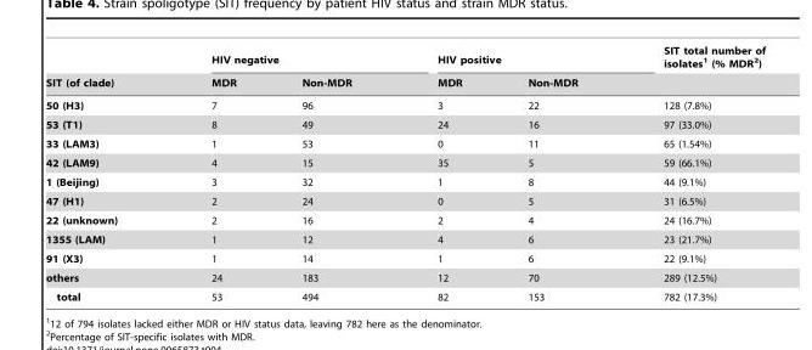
<table><thead><tr><td rowspan="2">SIT (of clade)</td><td colspan="2">HIV negative</td><td colspan="2">HIV positive</td><td rowspan="2">SIT total number of isolates<sup>1</sup> (% MDR<sup>2</sup>)</td></tr><tr><td>MDR</td><td>Non-MDR</td><td>MDR</td><td>Non-MDR</td></tr></thead><tbody><tr><td>50 (H3)</td><td>7</td><td>96</td><td>3</td><td>22</td><td>128 (7.8%)</td></tr><tr><td>53 (T1)</td><td>8</td><td>49</td><td>24</td><td>16</td><td>97 (33.0%)</td></tr><tr><td>33 (LAM3)</td><td>1</td><td>53</td><td>0</td><td>11</td><td>65 (1.54%)</td></tr><tr><td>42 (LAM9)</td><td>4</td><td>15</td><td>35</td><td>5</td><td>59 (66.1%)</td></tr><tr><td>1 (Beijing)</td><td>3</td><td>32</td><td>1</td><td>8</td><td>44 (9.1%)</td></tr><tr><td>47 (H1)</td><td>2</td><td>24</td><td>0</td><td>5</td><td>31 (6.5%)</td></tr><tr><td>22 (unknown)</td><td>2</td><td>16</td><td>2</td><td>4</td><td>24 (16.7%)</td></tr><tr><td>1355 (LAM)</td><td>1</td><td>12</td><td>4</td><td>6</td><td>23 (21.7%)</td></tr><tr><td>91 (X3)</td><td>1</td><td>14</td><td>1</td><td>6</td><td>22 (9.1%)</td></tr><tr><td>others</td><td>24</td><td>183</td><td>12</td><td>70</td><td>289 (12.5%)</td></tr><tr><td>total</td><td>53</td><td>494</td><td>82</td><td>153</td><td>782 (17.3%)</td></tr></tbody></table>